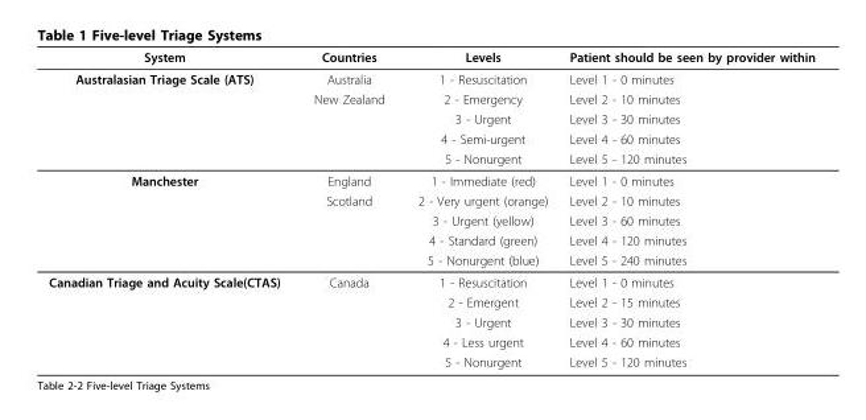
<table><thead><tr><td>System</td><td>Countries</td><td>Levels</td><td>Patient should be seen by provider within</td></tr></thead><tbody><tr><td rowspan="5">Australasian Triage Scale (ATS)</td><td>Australia</td><td>1 - Resuscitation</td><td>Level 1 - 0 minutes</td></tr><tr><td>New Zealand</td><td>2 - Emergency</td><td>Level 2 - 10 minutes</td></tr><tr><td></td><td>3 - Urgent</td><td>Level 3 - 30 minutes</td></tr><tr><td></td><td>4 - Semi-urgent</td><td>Level 4 - 60 minutes</td></tr><tr><td></td><td>5 - Nonurgent</td><td>Level 5 - 120 minutes</td></tr><tr><td rowspan="5">Manchester</td><td>England</td><td>1 - Immediate (red)</td><td>Level 1 - 0 minutes</td></tr><tr><td>Scotland</td><td>2 - Very urgent (orange)</td><td>Level 2 - 10 minutes</td></tr><tr><td></td><td>3 - Urgent (yellow)</td><td>Level 3 - 60 minutes</td></tr><tr><td></td><td>4 - Standard (green)</td><td>Level 4 - 120 minutes</td></tr><tr><td></td><td>5 - Nonurgent (blue)</td><td>Level 5 - 240 minutes</td></tr><tr><td rowspan="5">Canadian Triage and Acuity Scale(CTAS)</td><td>Canada</td><td>1 - Resuscitation</td><td>Level 1 - 0 minutes</td></tr><tr><td></td><td>2 - Emergent</td><td>Level 2 - 15 minutes</td></tr><tr><td></td><td>3 - Urgent</td><td>Level 3 - 30 minutes</td></tr><tr><td></td><td>4 - Less urgent</td><td>Level 4 - 60 minutes</td></tr><tr><td></td><td>5 - Nonurgent</td><td>Level 5 - 120 minutes</td></tr></tbody></table>